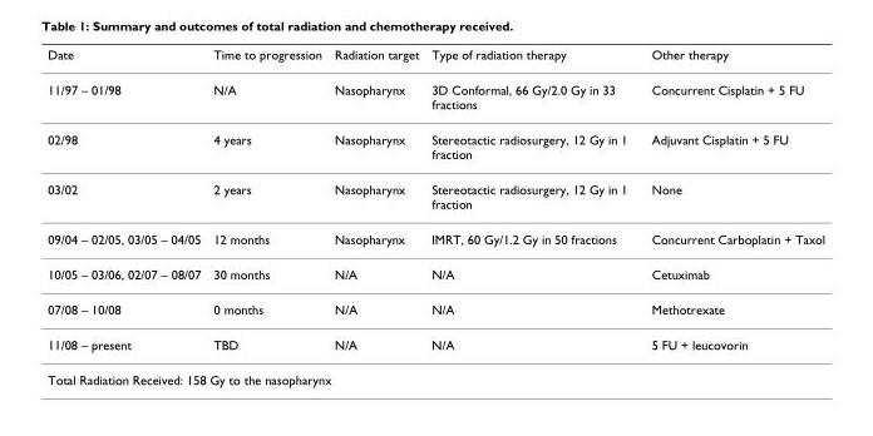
<table><thead><tr><td>Date</td><td>Time to progression</td><td>Radiation target</td><td>Type of radiation therapy</td><td>Other therapy</td></tr></thead><tbody><tr><td>11/97 – 01/98</td><td>N/A</td><td>Nasopharynx</td><td>3D Conformal, 66 Gy/2.0 Gy in 33 fractions</td><td>Concurrent Cisplatin + 5 FU</td></tr><tr><td>02/98</td><td>4 years</td><td>Nasopharynx</td><td>Stereotactic radiosurgery, 12 Gy in 1 fraction</td><td>Adjuvant Cisplatin + 5 FU</td></tr><tr><td>03/02</td><td>2 years</td><td>Nasopharynx</td><td>Stereotactic radiosurgery, 12 Gy in 1 fraction</td><td>None</td></tr><tr><td>09/04 – 02/05, 03/05 – 04/05</td><td>12 months</td><td>Nasopharynx</td><td>IMRT, 60 Gy/1.2 Gy in 50 fractions</td><td>Concurrent Carboplatin + Taxol</td></tr><tr><td>10/05 – 03/06, 02/07 – 08/07</td><td>30 months</td><td>N/A</td><td>N/A</td><td>Cetuximab</td></tr><tr><td>07/08 – 10/08</td><td>0 months</td><td>N/A</td><td>N/A</td><td>Methotrexate</td></tr><tr><td>11/08 – present</td><td>TBD</td><td>N/A</td><td>N/A</td><td>5 FU + leucovorin</td></tr><tr><td colspan="5">Total Radiation Received: 158 Gy to the nasopharynx</td></tr></tbody></table>